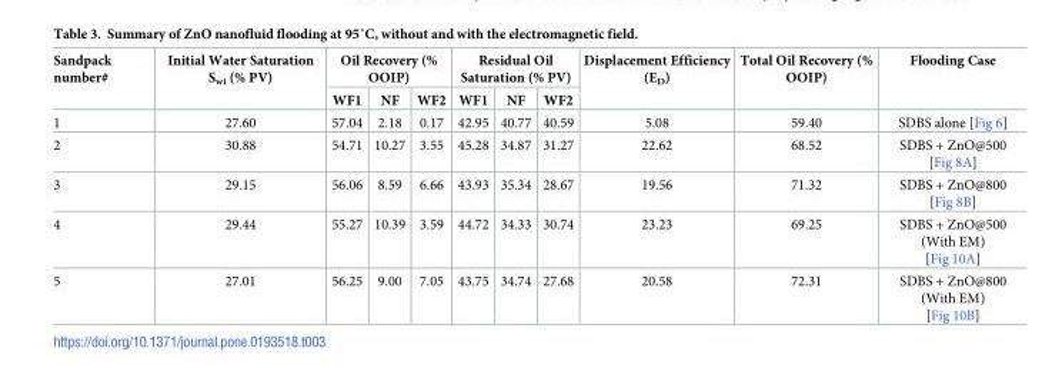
<table><thead><tr><td rowspan="2">Sandpack number#</td><td rowspan="2">Initial Water Saturation S<sub>wi</sub> (% PV)</td><td colspan="3">Oil Recovery (% OOIP)</td><td colspan="3">Residual Oil Saturation (% PV)</td><td rowspan="2">Displacement Efficiency (E<sub>D</sub>)</td><td rowspan="2">Total Oil Recovery (% OOIP)</td><td rowspan="2">Flooding Case</td></tr><tr><td>WF1</td><td>NF</td><td>WF2</td><td>WF1</td><td>NF</td><td>WF2</td></tr></thead><tbody><tr><td>1</td><td>27.60</td><td>57.04</td><td>2.18</td><td>0.17</td><td>42.95</td><td>40.77</td><td>40.59</td><td>5.08</td><td>59.40</td><td>SDBS alone [Fig 6]</td></tr><tr><td>2</td><td>30.88</td><td>54.71</td><td>10.27</td><td>3.55</td><td>45.28</td><td>34.87</td><td>31.27</td><td>22.62</td><td>68.52</td><td>SDBS + ZnO@500 [Fig 8A]</td></tr><tr><td>3</td><td>29.15</td><td>56.06</td><td>8.59</td><td>6.66</td><td>43.93</td><td>35.34</td><td>28.67</td><td>19.56</td><td>71.32</td><td>SDBS + ZnO@800 [Fig 8B]</td></tr><tr><td>4</td><td>29.44</td><td>55.27</td><td>10.39</td><td>3.59</td><td>44.72</td><td>34.33</td><td>30.74</td><td>23.23</td><td>69.25</td><td>SDBS + ZnO@500 (With EM) [Fig 10A]</td></tr><tr><td>5</td><td>27.01</td><td>56.25</td><td>9.00</td><td>7.05</td><td>43.75</td><td>34.74</td><td>27.68</td><td>20.58</td><td>72.31</td><td>SDBS + ZnO@800 (With EM) [Fig 10B]</td></tr></tbody></table>